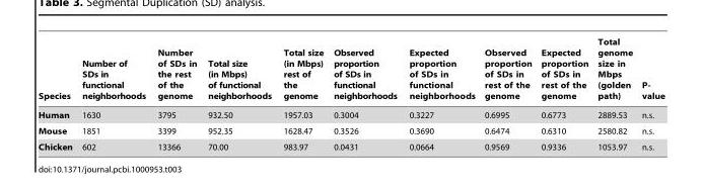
<table><thead><tr><td>Species</td><td>Number of SDs in functional neighborhoods</td><td>Number of SDs in the rest of the genome</td><td>Total size (in Mbps) of functional neighborhoods</td><td>Total size (in Mbps) rest of the genome</td><td>Observed proportion of SDs in functional neighborhoods</td><td>Expected proportion of SDs in functional neighborhoods</td><td>Observed proportion of SDs in rest of the genome</td><td>Expected proportion of SDs in rest of the genome</td><td>Total genome size in Mbps (golden path)</td><td>P- value</td></tr></thead><tbody><tr><td>Human</td><td>1630</td><td>3795</td><td>932.50</td><td>1957.03</td><td>0.3004</td><td>0.3227</td><td>0.6995</td><td>0.6773</td><td>2889.53</td><td>n.s.</td></tr><tr><td>Mouse</td><td>1851</td><td>3399</td><td>952.35</td><td>1628.47</td><td>0.3526</td><td>0.3690</td><td>0.6474</td><td>0.6310</td><td>2580.82</td><td>n.s.</td></tr><tr><td>Chicken</td><td>602</td><td>13366</td><td>70.00</td><td>983.97</td><td>0.0431</td><td>0.0664</td><td>0.9569</td><td>0.9336</td><td>1053.97</td><td>n.s.</td></tr></tbody></table>